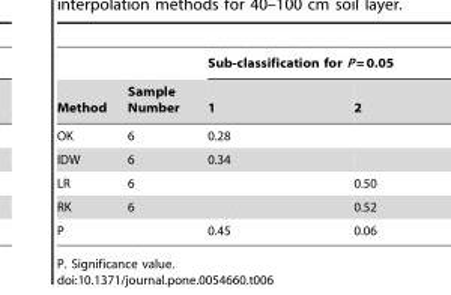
<table><thead><tr><td rowspan="2">Method</td><td rowspan="2">Sample Number</td><td colspan="2">Sub-classification for P = 0.05</td></tr><tr><td>1</td><td>2</td></tr></thead><tbody><tr><td>OK</td><td>6</td><td>0.28</td><td></td></tr><tr><td>IDW</td><td>6</td><td>0.34</td><td></td></tr><tr><td>LR</td><td>6</td><td></td><td>0.50</td></tr><tr><td>RK</td><td>6</td><td></td><td>0.52</td></tr><tr><td>P</td><td></td><td>0.45</td><td>0.06</td></tr></tbody></table>